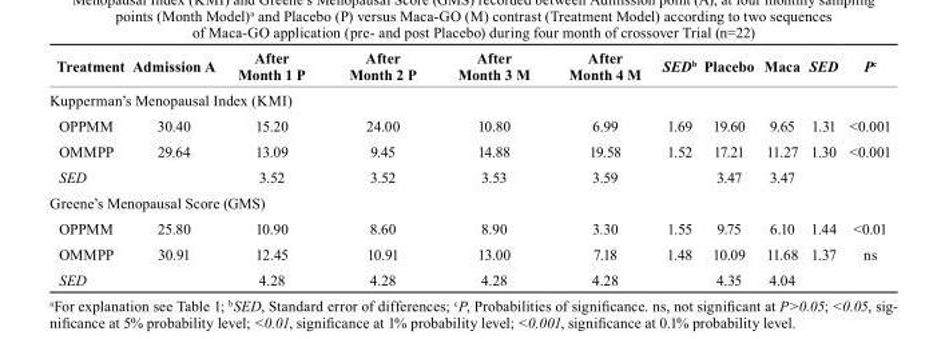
<table><thead><tr><td>treatment</td><td>Admission A</td><td>After Month 1 P</td><td>After Month 2 P</td><td>After Month 3 M</td><td>After Month 4 M</td><td>SED<sup>b</sup></td><td>Placebo</td><td>Maca</td><td>SED</td><td>P<sup>c</sup></td></tr></thead><tbody><tr><td colspan="11">Kupperman’s Menopausal Index (KMI)</td></tr><tr><td>OPPMM</td><td>30.40</td><td>15.20</td><td>24.00</td><td>10.80</td><td>6.99</td><td>1.69</td><td>19.60</td><td>9.65</td><td>1.31</td><td>&lt;0.001</td></tr><tr><td>OMMPP</td><td>29.64</td><td>13.09</td><td>9.45</td><td>14.88</td><td>19.58</td><td>1.52</td><td>17.21</td><td>11.27</td><td>1.30</td><td>&lt;0.001</td></tr><tr><td>SED</td><td></td><td>3.52</td><td>3.52</td><td>3.53</td><td>3.59</td><td></td><td>3.47</td><td>3.47</td><td></td><td></td></tr><tr><td colspan="11">Greene’s Menopausal Score (GMS)</td></tr><tr><td>OPPMM</td><td>25.80</td><td>10.90</td><td>8.60</td><td>8.90</td><td>3.30</td><td>1.55</td><td>9.75</td><td>6.10</td><td>1.44</td><td>&lt;0.01</td></tr><tr><td>OMMPP</td><td>30.91</td><td>12.45</td><td>10.91</td><td>13.00</td><td>7.18</td><td>1.48</td><td>10.09</td><td>11.68</td><td>1.37</td><td>ns</td></tr><tr><td>SED</td><td></td><td>4.28</td><td>4.28</td><td>4.28</td><td>4.28</td><td></td><td>4.35</td><td>4.04</td><td></td><td></td></tr></tbody></table>